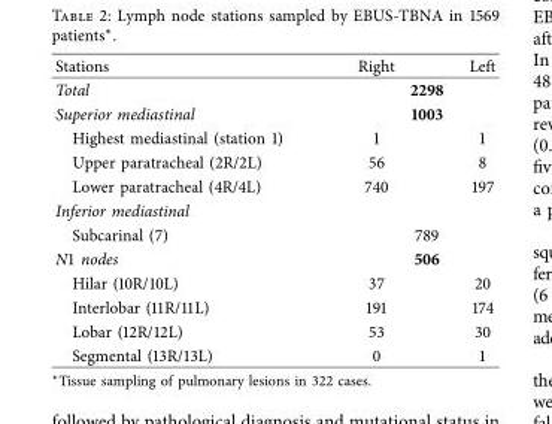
<table><thead><tr><td>Stations</td><td>Right</td><td>Left</td></tr></thead><tbody><tr><td>Total</td><td colspan="2">2298</td></tr><tr><td>Superior mediastinal</td><td colspan="2">1003</td></tr><tr><td>Highest mediastinal (station 1)</td><td>1</td><td>1</td></tr><tr><td>Upper paratracheal (2R/2L)</td><td>56</td><td>8</td></tr><tr><td>Lower paratracheal (4R/4L)</td><td>740</td><td>197</td></tr><tr><td colspan="3">Inferior mediastinal</td></tr><tr><td>Subcarinal (7)</td><td colspan="2">789</td></tr><tr><td>N1 nodes</td><td colspan="2">506</td></tr><tr><td>Hilar (10R/10L)</td><td>37</td><td>20</td></tr><tr><td>Interlobar (11R/11L)</td><td>191</td><td>174</td></tr><tr><td>Lobar (12R/12L)</td><td>53</td><td>30</td></tr><tr><td>Segmental (13R/13L)</td><td>0</td><td>1</td></tr></tbody></table>